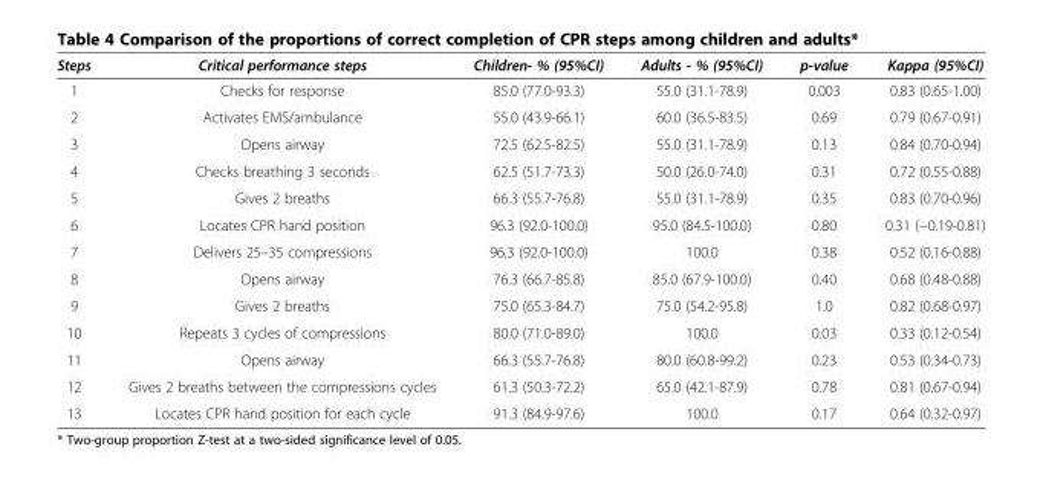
<table><thead><tr><td>Steps</td><td>Critical performance steps</td><td>Children- % (95%CI)</td><td>Adults - % (95%CI)</td><td>p-value</td><td>Kappa (95%CI)</td></tr></thead><tbody><tr><td>1</td><td>Checks for response</td><td>85.0 (77.0-93.3)</td><td>55.0 (31.1-78.9)</td><td>0.003</td><td>0.83 (0.65-1.00)</td></tr><tr><td>2</td><td>Activates EMS/ambulance</td><td>55.0 (43.9-66.1)</td><td>60.0 (36.5-83.5)</td><td>0.69</td><td>0.79 (0.67-0.91)</td></tr><tr><td>3</td><td>Opens airway</td><td>72.5 (62.5-82.5)</td><td>55.0 (31.1-78.9)</td><td>0.13</td><td>0.84 (0.70-0.94)</td></tr><tr><td>4</td><td>Checks breathing 3 seconds</td><td>62.5 (51.7-73.3)</td><td>50.0 (26.0-74.0)</td><td>0.31</td><td>0.72 (0.55-0.88)</td></tr><tr><td>5</td><td>Gives 2 breaths</td><td>66.3 (55.7-76.8)</td><td>55.0 (31.1-78.9)</td><td>0.35</td><td>0.83 (0.70-0.96)</td></tr><tr><td>6</td><td>Locates CPR hand position</td><td>96.3 (92.0-100.0)</td><td>95.0 (84.5-100.0)</td><td>0.80</td><td>0.31 (−0.19-0.81)</td></tr><tr><td>7</td><td>Delivers 25–35 compressions</td><td>96.3 (92.0-100.0)</td><td>100.0</td><td>0.38</td><td>0.52 (0.16-0.88)</td></tr><tr><td>8</td><td>Opens airway</td><td>76.3 (66.7-85.8)</td><td>85.0 (67.9-100.0)</td><td>0.40</td><td>0.68 (0.48-0.88)</td></tr><tr><td>9</td><td>Gives 2 breaths</td><td>75.0 (65.3-84.7)</td><td>75.0 (54.2-95.8)</td><td>1.0</td><td>0.82 (0.68-0.97)</td></tr><tr><td>10</td><td>Repeats 3 cycles of compressions</td><td>80.0 (71.0-89.0)</td><td>100.0</td><td>0.03</td><td>0.33 (0.12-0.54)</td></tr><tr><td>11</td><td>Opens airway</td><td>66.3 (55.7-76.8)</td><td>80.0 (60.8-99.2)</td><td>0.23</td><td>0.53 (0.34-0.73)</td></tr><tr><td>12</td><td>Gives 2 breaths between the compressions cycles</td><td>61.3 (50.3-72.2)</td><td>65.0 (42.1-87.9)</td><td>0.78</td><td>0.81 (0.67-0.94)</td></tr><tr><td>13</td><td>Locates CPR hand position for each cycle</td><td>91.3 (84.9-97.6)</td><td>100.0</td><td>0.17</td><td>0.64 (0.32-0.97)</td></tr></tbody></table>